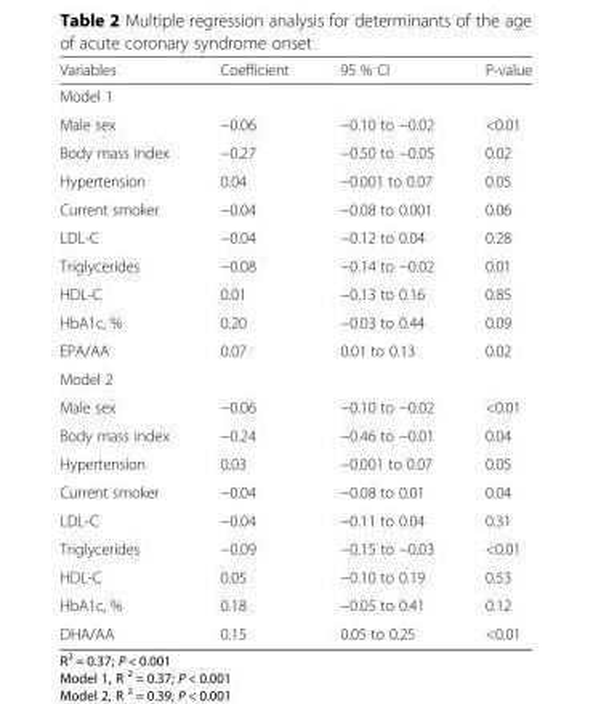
<table><thead><tr><td>Variables</td><td>Coefficient</td><td>95 % CI</td><td>P-value</td></tr></thead><tbody><tr><td colspan="4">Model 1</td></tr><tr><td>Male sex</td><td>−0.06</td><td>−0.10 to −0.02</td><td>&lt;0.01</td></tr><tr><td>Body mass index</td><td>−0.27</td><td>−0.50 to −0.05</td><td>0.02</td></tr><tr><td>Hypertension</td><td>0.04</td><td>−0.001 to 0.07</td><td>0.05</td></tr><tr><td>Current smoker</td><td>−0.04</td><td>−0.08 to 0.001</td><td>0.06</td></tr><tr><td>LDL-C</td><td>−0.04</td><td>−0.12 to 0.04</td><td>0.28</td></tr><tr><td>Triglycerides</td><td>−0.08</td><td>−0.14 to −0.02</td><td>0.01</td></tr><tr><td>HDL-C</td><td>0.01</td><td>−0.13 to 0.16</td><td>0.85</td></tr><tr><td>HbA1c, %</td><td>0.20</td><td>−0.03 to 0.44</td><td>0.09</td></tr><tr><td>EPA/AA</td><td>0.07</td><td>0.01 to 0.13</td><td>0.02</td></tr><tr><td colspan="4">Model 2</td></tr><tr><td>Male sex</td><td>−0.06</td><td>−0.10 to −0.02</td><td>&lt;0.01</td></tr><tr><td>Body mass index</td><td>−0.24</td><td>−0.46 to −0.01</td><td>0.04</td></tr><tr><td>Hypertension</td><td>0.03</td><td>−0.001 to 0.07</td><td>0.05</td></tr><tr><td>Current smoker</td><td>−0.04</td><td>−0.08 to 0.01</td><td>0.04</td></tr><tr><td>LDL-C</td><td>−0.04</td><td>−0.11 to 0.04</td><td>0.31</td></tr><tr><td>Triglycerides</td><td>−0.09</td><td>−0.15 to −0.03</td><td>&lt;0.01</td></tr><tr><td>HDL-C</td><td>0.05</td><td>−0.10 to 0.19</td><td>0.53</td></tr><tr><td>HbA1c, %</td><td>0.18</td><td>−0.05 to 0.41</td><td>0.12</td></tr><tr><td>DHA/AA</td><td>0.15</td><td>0.05 to 0.25</td><td>&lt;0.01</td></tr></tbody></table>